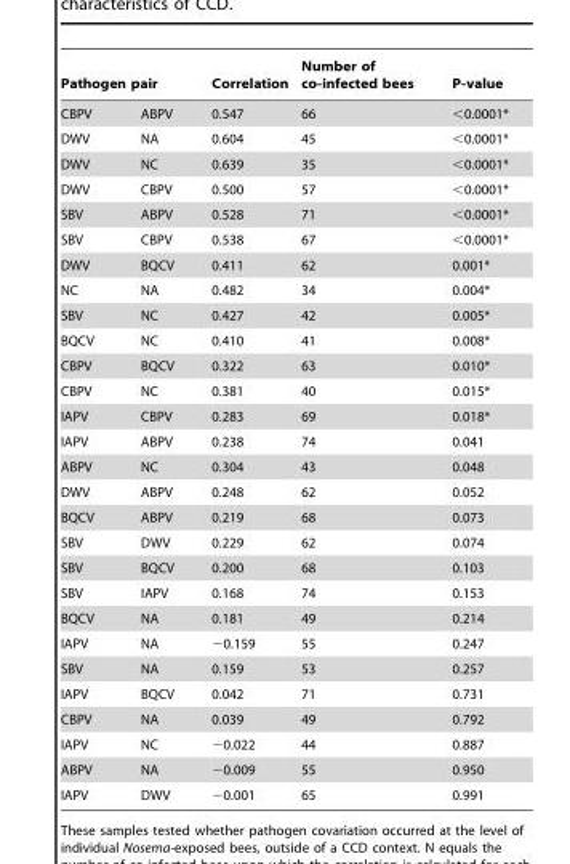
<table><thead><tr><td colspan="2">Pathogen pair</td><td rowspan="2">Correlation 0.547</td><td rowspan="2">Number of co-infected bees 66</td><td rowspan="2">P-value &lt;0.0001*</td></tr><tr><td>CBPV</td><td>ABPV</td></tr></thead><tbody><tr><td>DWV</td><td>NA</td><td>0.604</td><td>45</td><td>&lt;0.0001*</td></tr><tr><td>DWV</td><td>NC</td><td>0.639</td><td>35</td><td>&lt;0.0001*</td></tr><tr><td>DWV</td><td>CBPV</td><td>0.500</td><td>57</td><td>&lt;0.0001*</td></tr><tr><td>SBV</td><td>ABPV</td><td>0.528</td><td>71</td><td>&lt;0.0001*</td></tr><tr><td>SBV</td><td>CBPV</td><td>0.538</td><td>67</td><td>&lt;0.0001*</td></tr><tr><td>DWV</td><td>BQCV</td><td>0.411</td><td>62</td><td>0.001*</td></tr><tr><td>NC</td><td>NA</td><td>0.482</td><td>34</td><td>0.004*</td></tr><tr><td>SBV</td><td>NC</td><td>0.427</td><td>42</td><td>0.005*</td></tr><tr><td>BQCV</td><td>NC</td><td>0.410</td><td>41</td><td>0.008*</td></tr><tr><td>CBPV</td><td>BQCV</td><td>0.322</td><td>63</td><td>0.010*</td></tr><tr><td>CBPV</td><td>NC</td><td>0.381</td><td>40</td><td>0.015*</td></tr><tr><td>IAPV</td><td>CBPV</td><td>0.283</td><td>69</td><td>0.018*</td></tr><tr><td>IAPV</td><td>ABPV</td><td>0.238</td><td>74</td><td>0.041</td></tr><tr><td>ABPV</td><td>NC</td><td>0.304</td><td>43</td><td>0.048</td></tr><tr><td>DWV</td><td>ABPV</td><td>0.248</td><td>62</td><td>0.052</td></tr><tr><td>BQCV</td><td>ABPV</td><td>0.219</td><td>68</td><td>0.073</td></tr><tr><td>SBV</td><td>DWV</td><td>0.229</td><td>62</td><td>0.074</td></tr><tr><td>SBV</td><td>BQCV</td><td>0.200</td><td>68</td><td>0.103</td></tr><tr><td>SBV</td><td>IAPV</td><td>0.168</td><td>74</td><td>0.153</td></tr><tr><td>BQCV</td><td>NA</td><td>0.181</td><td>49</td><td>0.214</td></tr><tr><td>IAPV</td><td>NA</td><td>−0.159</td><td>55</td><td>0.247</td></tr><tr><td>SBV</td><td>NA</td><td>0.159</td><td>53</td><td>0.257</td></tr><tr><td>IAPV</td><td>BQCV</td><td>0.042</td><td>71</td><td>0.731</td></tr><tr><td>CBPV</td><td>NA</td><td>0.039</td><td>49</td><td>0.792</td></tr><tr><td>IAPV</td><td>NC</td><td>−0.022</td><td>44</td><td>0.887</td></tr><tr><td>ABPV</td><td>NA</td><td>−0.009</td><td>55</td><td>0.950</td></tr><tr><td>IAPV</td><td>DWV</td><td>−0.001</td><td>65</td><td>0.991</td></tr></tbody></table>